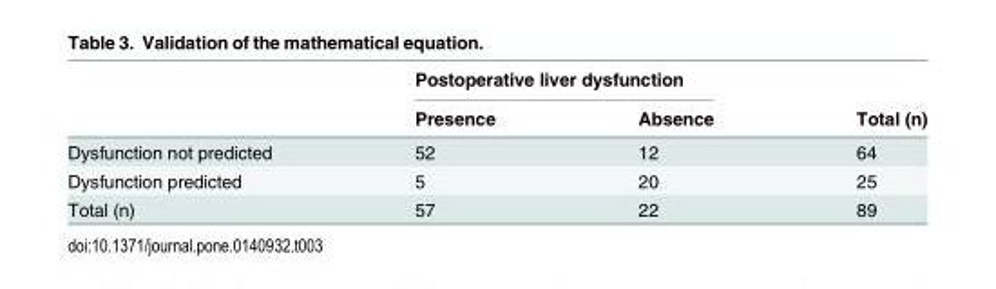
<table><thead><tr><td rowspan="2"></td><td colspan="2">Postoperative liver dysfunction</td><td rowspan="2">Total (n)</td></tr><tr><td>Presence</td><td>Absence</td></tr></thead><tbody><tr><td>Dysfunction not predicted</td><td>52</td><td>12</td><td>64</td></tr><tr><td>Dysfunction predicted</td><td>5</td><td>20</td><td>25</td></tr><tr><td>Total (n)</td><td>57</td><td>22</td><td>89</td></tr></tbody></table>